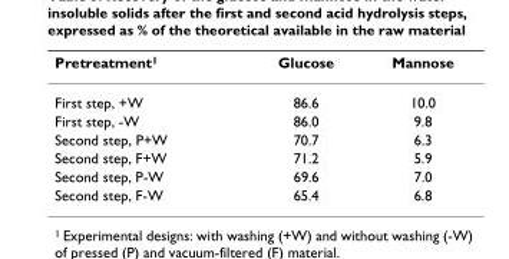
<table><thead><tr><td>Pretreatment<sup>1</sup></td><td>Glucose</td><td>Mannose</td></tr></thead><tbody><tr><td>First step, +W</td><td>86.6</td><td>10.0</td></tr><tr><td>First step, -W</td><td>86.0</td><td>9.8</td></tr><tr><td>Second step, P+W</td><td>70.7</td><td>6.3</td></tr><tr><td>Second step, F+W</td><td>71.2</td><td>5.9</td></tr><tr><td>Second step, P-W</td><td>69.6</td><td>7.0</td></tr><tr><td>Second step, F-W</td><td>65.4</td><td>6.8</td></tr></tbody></table>